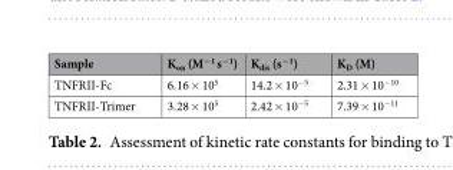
<table><thead><tr><td>Sample</td><td>K<sub>on</sub> (M<sup>−1</sup> s<sup>−1</sup>)</td><td>K<sub>dis</sub> (s<sup>−1</sup>)</td><td>K<sub>D</sub> (M)</td></tr></thead><tbody><tr><td>TNFRII-Fc</td><td>6.16 × 10<sup>5</sup></td><td>14.2 × 10<sup>−5</sup></td><td>2.31 × 10<sup>−10</sup></td></tr><tr><td>TNFRII-Trimer</td><td>3.28 × 10<sup>5</sup></td><td>2.42 × 10<sup>−5</sup></td><td>7.39 × 10<sup>−11</sup></td></tr></tbody></table>